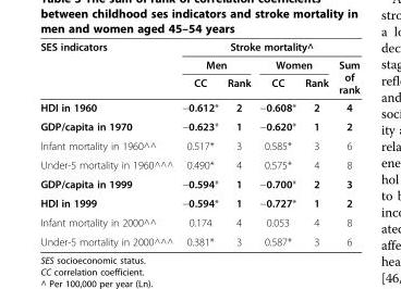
<table><thead><tr><td rowspan="3">SES indicators</td><td colspan="5">Stroke mortality^</td></tr><tr><td colspan="2">Men</td><td colspan="2">Women</td><td rowspan="2">Sum of rank</td></tr><tr><td>CC</td><td>Rank</td><td>CC</td><td>Rank</td></tr></thead><tbody><tr><td>HDI in 1960</td><td>−0.612*</td><td>2</td><td>−0.608*</td><td>2</td><td>4</td></tr><tr><td>GDP/capita in 1970</td><td>−0.623*</td><td>1</td><td>−0.620*</td><td>1</td><td>2</td></tr><tr><td>Infant mortality in 1960^^</td><td>0.517*</td><td>3</td><td>0.585*</td><td>3</td><td>6</td></tr><tr><td>Under-5 mortality in 1960^^^</td><td>0.490*</td><td>4</td><td>0.575*</td><td>4</td><td>8</td></tr><tr><td>GDP/capita in 1999</td><td>−0.594*</td><td>1</td><td>−0.700*</td><td>2</td><td>3</td></tr><tr><td>HDI in 1999</td><td>−0.594*</td><td>1</td><td>−0.727*</td><td>1</td><td>2</td></tr><tr><td>Infant mortality in 2000^^</td><td>0.174</td><td>4</td><td>0.053</td><td>4</td><td>8</td></tr><tr><td>Under-5 mortality in 2000^^^</td><td>0.381*</td><td>3</td><td>0.587*</td><td>3</td><td>6</td></tr></tbody></table>